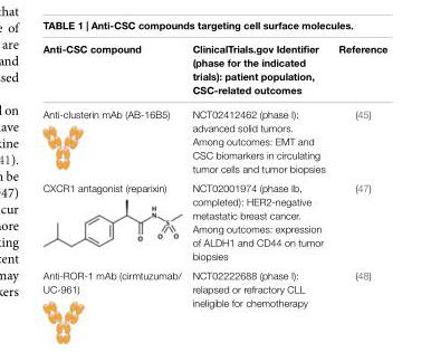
<table><thead><tr><td>Anti-CSC compound</td><td>ClinicalTrials.gov identifier (phase for the indicated trials): patient population, CSC-related outcomes</td><td>Reference</td></tr></thead><tbody><tr><td>Anti-clusterin mAb (AB-16B5)</td><td>NCT02412462 (phase I): advanced solid tumors. Among outcomes: EMT and CSC biomarkers in circulating tumor cells and tumor biopsies</td><td>(45)</td></tr><tr><td>CXCR1 antagonist (reparixin)</td><td>NCT02001974 (phase Ib, completed): HER2-negative metastatic breast cancer. Among outcomes: expression of ALDH1 and CD44 on tumor biopsies</td><td>(47)</td></tr><tr><td>Anti-ROR-1 mAb (cirmtuzumab/ UC-961)</td><td>NCT02222688 (phase I): relapsed or refractory CLL ineligible for chemotherapy</td><td>(48)</td></tr></tbody></table>